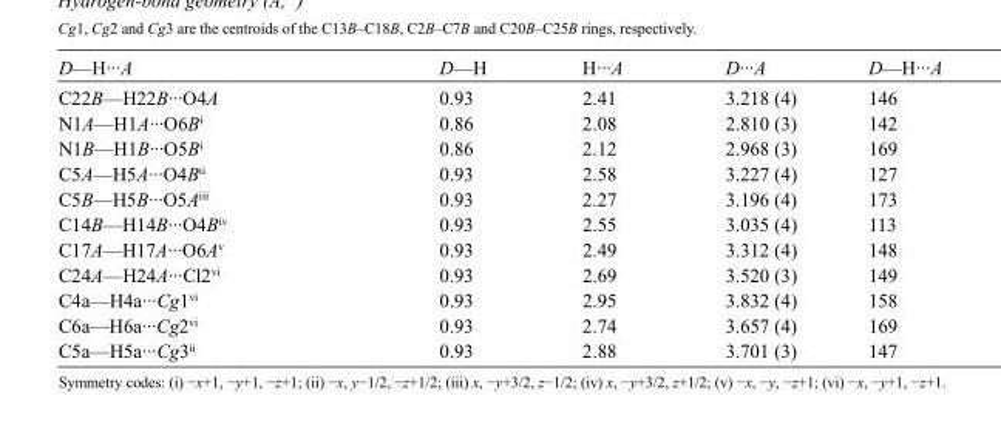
<table><tbody><tr><td>D—H···A</td><td>D—H</td><td>H···A</td><td>D···A</td><td>D—H···A</td></tr><tr><td>C22B—H22B···O4A</td><td>0.93</td><td>2.41</td><td>3.218 (4)</td><td>146</td></tr><tr><td>N1A—H1A···O6B<sup>i</sup></td><td>0.86</td><td>2.08</td><td>2.810 (3)</td><td>142</td></tr><tr><td>N1B—H1B···O5B<sup>i</sup></td><td>0.86</td><td>2.12</td><td>2.968 (3)</td><td>169</td></tr><tr><td>C5A—H5A···O4B<sup>ii</sup></td><td>0.93</td><td>2.58</td><td>3.227 (4)</td><td>127</td></tr><tr><td>C5B—H5B···O5A<sup>iii</sup></td><td>0.93</td><td>2.27</td><td>3.196 (4)</td><td>173</td></tr><tr><td>C14B—H14B···O4B<sup>iv</sup></td><td>0.93</td><td>2.55</td><td>3.035 (4)</td><td>113</td></tr><tr><td>C17A—H17A···O6A<sup>v</sup></td><td>0.93</td><td>2.49</td><td>3.312 (4)</td><td>148</td></tr><tr><td>C24A—H24A···Cl2<sup>vi</sup></td><td>0.93</td><td>2.69</td><td>3.520 (3)</td><td>149</td></tr><tr><td>C4a—H4a···Cg1<sup>vi</sup></td><td>0.93</td><td>2.95</td><td>3.832 (4)</td><td>158</td></tr><tr><td>C6a—H6a···Cg2<sup>vi</sup></td><td>0.93</td><td>2.74</td><td>3.657 (4)</td><td>169</td></tr><tr><td>C5a—H5a···Cg3<sup>ii</sup></td><td>0.93</td><td>2.88</td><td>3.701 (3)</td><td>147</td></tr></tbody></table>